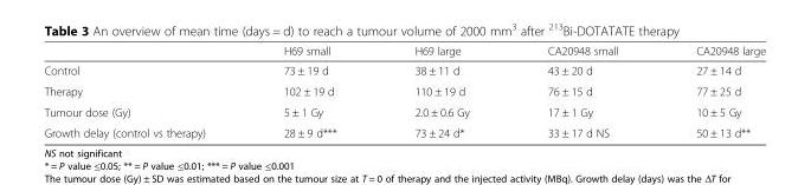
<table><thead><tr><td></td><td>H69 small</td><td>H69 large</td><td>CA20948 small</td><td>CA20948 large</td></tr></thead><tbody><tr><td>Control</td><td>73 ± 19 d</td><td>38 ± 11 d</td><td>43 ± 20 d</td><td>27 ± 14 d</td></tr><tr><td>Therapy</td><td>102 ± 19 d</td><td>110 ± 19 d</td><td>76 ± 15 d</td><td>77 ± 25 d</td></tr><tr><td>Tumour dose (Gy)</td><td>5 ± 1 Gy</td><td>2.0 ± 0.6 Gy</td><td>17 ± 1 Gy</td><td>10 ± 5 Gy</td></tr><tr><td>Growth delay (control vs therapy)</td><td>28 ± 9 d***</td><td>73 ± 24 d*</td><td>33 ± 17 d NS</td><td>50 ± 13 d**</td></tr></tbody></table>